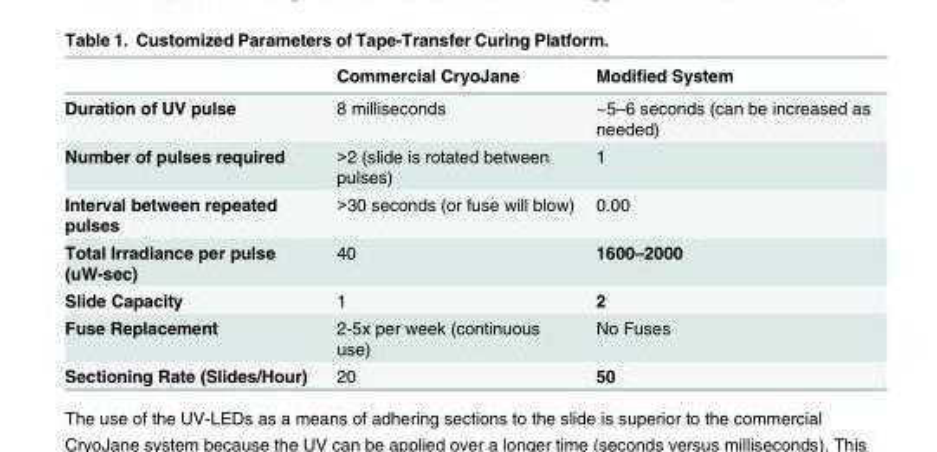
<table><thead><tr><td></td><td>Commercial CryoJane</td><td>Modified System</td></tr></thead><tbody><tr><td>Duration of UV pulse</td><td>8 milliseconds</td><td>~5–6 seconds (can be increased as needed)</td></tr><tr><td>Number of pulses required</td><td>&gt;2 (slide is rotated between pulses)</td><td>1</td></tr><tr><td>Interval between repeated pulses</td><td>&gt;30 seconds (or fuse will blow)</td><td>0.00</td></tr><tr><td>Total Irradiance per pulse (uW-sec)</td><td>40</td><td>1600–2000</td></tr><tr><td>Slide Capacity</td><td>1</td><td>2</td></tr><tr><td>Fuse Replacement</td><td>2-5x per week (continuous use)</td><td>No Fuses</td></tr><tr><td>Sectioning Rate (Slides/Hour)</td><td>20</td><td>50</td></tr></tbody></table>